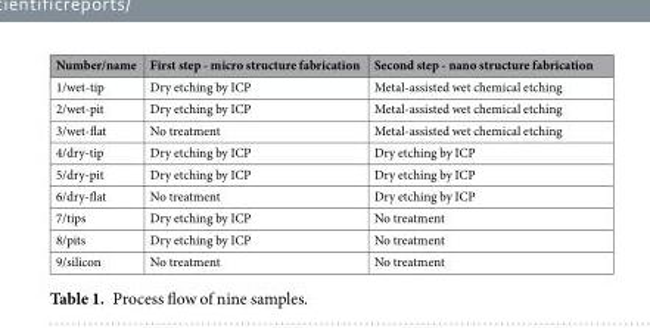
<table><thead><tr><td>Number/name</td><td>First step - micro structure fabrication</td><td>Second step - nano structure fabrication</td></tr></thead><tbody><tr><td>1/wet-tip</td><td>Dry etching by ICP</td><td>Metal-assisted wet chemical etching</td></tr><tr><td>2/wet-pit</td><td>Dry etching by ICP</td><td>Metal-assisted wet chemical etching</td></tr><tr><td>3/wet-flat</td><td>No treatment</td><td>Metal-assisted wet chemical etching</td></tr><tr><td>4/dry-tip</td><td>Dry etching by ICP</td><td>Dry etching by ICP</td></tr><tr><td>5/dry-pit</td><td>Dry etching by ICP</td><td>Dry etching by ICP</td></tr><tr><td>6/dry-flat</td><td>No treatment</td><td>Dry etching by ICP</td></tr><tr><td>7/tips</td><td>Dry etching by ICP</td><td>No treatment</td></tr><tr><td>8/pits</td><td>Dry etching by ICP</td><td>No treatment</td></tr><tr><td>9/silicon</td><td>No treatment</td><td>No treatment</td></tr></tbody></table>